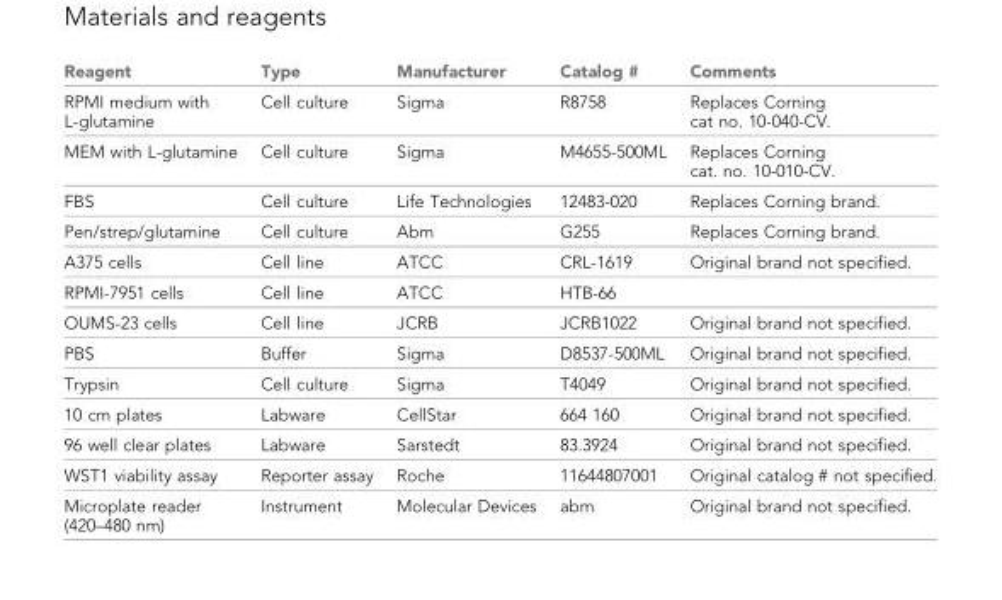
<table><thead><tr><td>Reagent</td><td>Type</td><td>Manufacturer</td><td>Catalog #</td><td>Comments</td></tr></thead><tbody><tr><td>RPMI medium with L-glutamine</td><td>Cell culture</td><td>Sigma</td><td>R8758</td><td>Replaces Corning cat no. 10-040-CV.</td></tr><tr><td>MEM with L-glutamine</td><td>Cell culture</td><td>Sigma</td><td>M4655-500ML</td><td>Replaces Corning cat. no. 10-010-CV.</td></tr><tr><td>FBS</td><td>Cell culture</td><td>Life Technologies</td><td>12483-020</td><td>Replaces Corning brand.</td></tr><tr><td>Pen/strep/glutamine</td><td>Cell culture</td><td>Abm</td><td>G255</td><td>Replaces Corning brand.</td></tr><tr><td>A375 cells</td><td>Cell line</td><td>ATCC</td><td>CRL-1619</td><td>Original brand not specified.</td></tr><tr><td>RPMI-7951 cells</td><td>Cell line</td><td>ATCC</td><td>HTB-66</td><td></td></tr><tr><td>OUMS-23 cells</td><td>Cell line</td><td>JCRB</td><td>JCRB1022</td><td>Original brand not specified.</td></tr><tr><td>PBS</td><td>Buffer</td><td>Sigma</td><td>D8537-500ML</td><td>Original brand not specified.</td></tr><tr><td>Trypsin</td><td>Cell culture</td><td>Sigma</td><td>T4049</td><td>Original brand not specified.</td></tr><tr><td>10 cm plates</td><td>Labware</td><td>CellStar</td><td>664 160</td><td>Original brand not specified.</td></tr><tr><td>96 well clear plates</td><td>Labware</td><td>Sarstedt</td><td>83.3924</td><td>Original brand not specified.</td></tr><tr><td>WST1 viability assay</td><td>Reporter assay</td><td>Roche</td><td>11644807001</td><td>Original catalog # not specified.</td></tr><tr><td>Microplate reader (420–480 nm)</td><td>Instrument</td><td>Molecular Devices</td><td>abm</td><td>Original brand not specified.</td></tr></tbody></table>